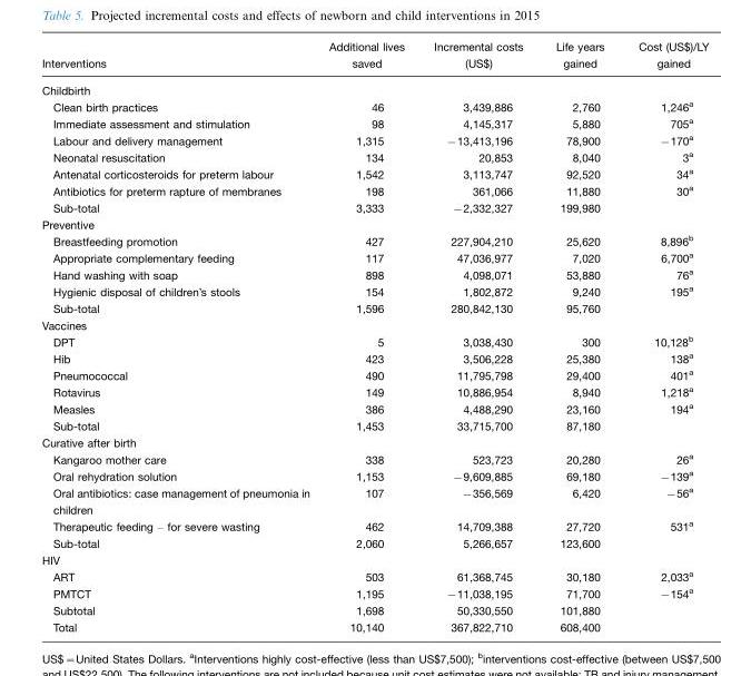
<table><thead><tr><td>Interventions</td><td>Additional lives saved</td><td>Incremental costs (US$)</td><td>Life years gained</td><td>Cost (US$)/LY gained</td></tr></thead><tbody><tr><td colspan="5">Childbirth</td></tr><tr><td>Clean birth practices</td><td>46</td><td>3,439,886</td><td>2,760</td><td>1,246<sup>a</sup></td></tr><tr><td>Immediate assessment and stimulation</td><td>98</td><td>4,145,317</td><td>5,880</td><td>705<sup>a</sup></td></tr><tr><td>Labour and delivery management</td><td>1,315</td><td>−13,413,196</td><td>78,900</td><td>−170<sup>a</sup></td></tr><tr><td>Neonatal resuscitation</td><td>134</td><td>20,853</td><td>8,040</td><td>3<sup>a</sup></td></tr><tr><td>Antenatal corticosteroids for preterm labour</td><td>1,542</td><td>3,113,747</td><td>92,520</td><td>34<sup>a</sup></td></tr><tr><td>Antibiotics for preterm rapture of membranes</td><td>198</td><td>361,066</td><td>11,880</td><td>30<sup>a</sup></td></tr><tr><td>Sub-total</td><td>3,333</td><td>−2,332,327</td><td>199,980</td><td></td></tr><tr><td colspan="5">Preventive</td></tr><tr><td>Breastfeeding promotion</td><td>427</td><td>227,904,210</td><td>25,620</td><td>8,896<sup>b</sup></td></tr><tr><td>Appropriate complementary feeding</td><td>117</td><td>47,036,977</td><td>7,020</td><td>6,700<sup>a</sup></td></tr><tr><td>Hand washing with soap</td><td>898</td><td>4,098,071</td><td>53,880</td><td>76<sup>a</sup></td></tr><tr><td>Hygienic disposal of children’s stools</td><td>154</td><td>1,802,872</td><td>9,240</td><td>195<sup>a</sup></td></tr><tr><td>Sub-total</td><td>1,596</td><td>280,842,130</td><td>95,760</td><td></td></tr><tr><td colspan="5">Vaccines</td></tr><tr><td>DPT</td><td>5</td><td>3,038,430</td><td>300</td><td>10,128<sup>b</sup></td></tr><tr><td>Hib</td><td>423</td><td>3,506,228</td><td>25,380</td><td>138<sup>a</sup></td></tr><tr><td>Pneumococcal</td><td>490</td><td>11,795,798</td><td>29,400</td><td>401<sup>a</sup></td></tr><tr><td>Rotavirus</td><td>149</td><td>10,886,954</td><td>8,940</td><td>1,218<sup>a</sup></td></tr><tr><td>Measles</td><td>386</td><td>4,488,290</td><td>23,160</td><td>194<sup>a</sup></td></tr><tr><td>Sub-total</td><td>1,453</td><td>33,715,700</td><td>87,180</td><td></td></tr><tr><td colspan="5">Curative after birth</td></tr><tr><td>Kangaroo mother care</td><td>338</td><td>523,723</td><td>20,280</td><td>26<sup>a</sup></td></tr><tr><td>Oral rehydration solution</td><td>1,153</td><td>−9,609,885</td><td>69,180</td><td>−139<sup>a</sup></td></tr><tr><td>Oral antibiotics: case management of pneumonia in children</td><td>107</td><td>−356,569</td><td>6,420</td><td>−56<sup>a</sup></td></tr><tr><td>Therapeutic feeding – for severe wasting</td><td>462</td><td>14,709,388</td><td>27,720</td><td>531<sup>a</sup></td></tr><tr><td>Sub-total</td><td>2,060</td><td>5,266,657</td><td>123,600</td><td></td></tr><tr><td colspan="5">HIV</td></tr><tr><td>ART</td><td>503</td><td>61,368,745</td><td>30,180</td><td>2,033<sup>a</sup></td></tr><tr><td>PMTCT</td><td>1,195</td><td>−11,038,195</td><td>71,700</td><td>−154<sup>a</sup></td></tr><tr><td>Subtotal</td><td>1,698</td><td>50,330,550</td><td>101,880</td><td></td></tr><tr><td>Total</td><td>10,140</td><td>367,822,710</td><td>608,400</td><td></td></tr></tbody></table>